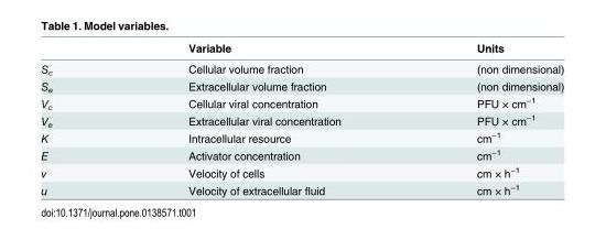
<table><thead><tr><td></td><td>Variable</td><td>Units</td></tr></thead><tbody><tr><td>S<sub>c</sub></td><td>Cellular volume fraction</td><td>(non dimensional)</td></tr><tr><td>S<sub>e</sub></td><td>Extracellular volume fraction</td><td>(non dimensional)</td></tr><tr><td>V<sub>c</sub></td><td>Cellular viral concentration</td><td>PFU × cm<sup>−1</sup></td></tr><tr><td>V<sub>e</sub></td><td>Extracellular viral concentration</td><td>PFU × cm<sup>−1</sup></td></tr><tr><td>K</td><td>Intracellular resource</td><td>cm<sup>−1</sup></td></tr><tr><td>E</td><td>Activator concentration</td><td>cm<sup>−1</sup></td></tr><tr><td>v</td><td>Velocity of cells</td><td>cm × h<sup>−1</sup></td></tr><tr><td>u</td><td>Velocity of extracellular fluid</td><td>cm × h<sup>−1</sup></td></tr></tbody></table>